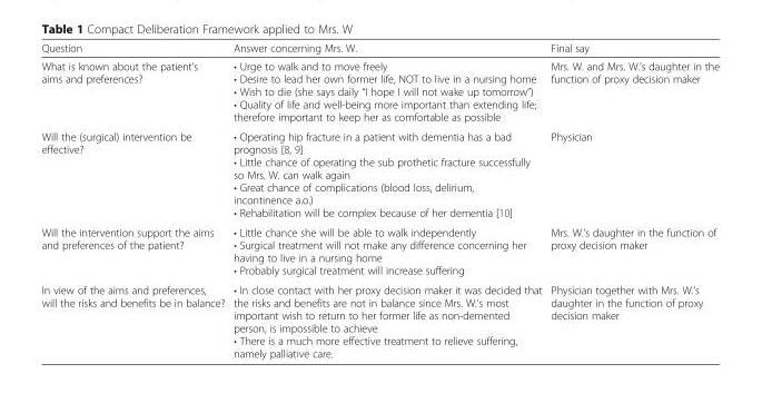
<table><thead><tr><td>Question</td><td>Answer concerning Mrs. W.</td><td>Final say</td></tr></thead><tbody><tr><td>What is known about the patient’s aims and preferences?</td><td>• Urge to walk and to move freely • Desire to lead her own former life, NOT to live in a nursing home • Wish to die (she says daily “I hope I will not wake up tomorrow”) • Quality of life and well-being more important than extending life; therefore important to keep her as comfortable as possible</td><td>Mrs. W. and Mrs. W.’s daughter in the function of proxy decision maker</td></tr><tr><td>Will the (surgical) intervention be effective?</td><td>• Operating hip fracture in a patient with dementia has a bad prognosis [8, 9] • Little chance of operating the sub prothetic fracture successfully so Mrs. W. can walk again • Great chance of complications (blood loss, delirium, incontinence a.o.) • Rehabilitation will be complex because of her dementia [10]</td><td>Physician</td></tr><tr><td>Will the intervention support the aims and preferences of the patient?</td><td>• Little chance she will be able to walk independently • Surgical treatment will not make any difference concerning her having to live in a nursing home • Probably surgical treatment will increase suffering</td><td>Mrs. W.’s daughter in the function of proxy decision maker</td></tr><tr><td>In view of the aims and preferences, will the risks and benefits be in balance?</td><td>• In close contact with her proxy decision maker it was decided that the risks and benefits are not in balance since Mrs. W.’s most important wish to return to her former life as non-demented person, is impossible to achieve • There is a much more effective treatment to relieve suffering, namely palliative care.</td><td>Physician together with Mrs. W.’s daughter in the function of proxy decision maker</td></tr></tbody></table>